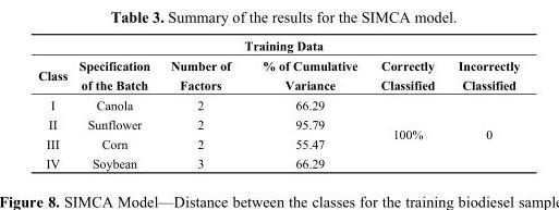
<table><thead><tr><td colspan="6">Training Data</td></tr><tr><td>Class</td><td>Specification of the Batch</td><td>Number of Factors</td><td>% of Cumulative Variance</td><td>Correctly Classified</td><td>Incorrectly Classified</td></tr></thead><tbody><tr><td>I</td><td>Canola</td><td>2</td><td>66.29</td><td rowspan="4">100%</td><td rowspan="4">0</td></tr><tr><td>II</td><td>Sunflower</td><td>2</td><td>95.79</td></tr><tr><td>III</td><td>Corn</td><td>2</td><td>55.47</td></tr><tr><td>IV</td><td>Soybean</td><td>3</td><td>66.29</td></tr></tbody></table>